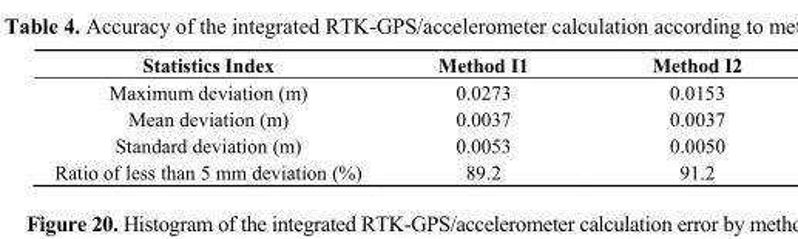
<table><thead><tr><td>Statistics Index</td><td>Method I1</td><td>Method I2</td></tr></thead><tbody><tr><td>Maximum deviation (m)</td><td>0.0273</td><td>0.0153</td></tr><tr><td>Mean deviation (m)</td><td>0.0037</td><td>0.0037</td></tr><tr><td>Standard deviation (m)</td><td>0.0053</td><td>0.0050</td></tr><tr><td>Ratio of less than 5 mm deviation (%)</td><td>89.2</td><td>91.2</td></tr></tbody></table>